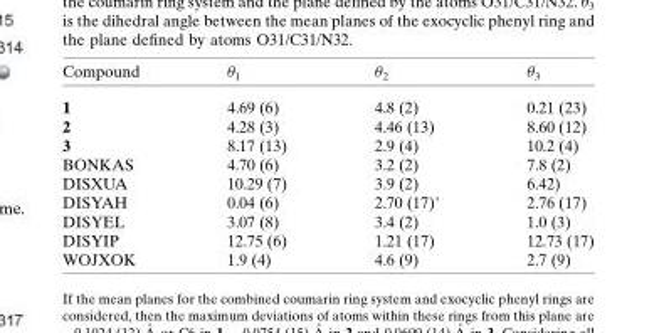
<table><thead><tr><td>Compound</td><td>θ<sub>1</sub></td><td>θ<sub>2</sub></td><td>θ<sub>3</sub></td></tr></thead><tbody><tr><td>1</td><td>4.69 (6)</td><td>4.8 (2)</td><td>0.21 (23)</td></tr><tr><td>2</td><td>4.28 (3)</td><td>4.46 (13)</td><td>8.60 (12)</td></tr><tr><td>3</td><td>8.17 (13)</td><td>2.9 (4)</td><td>10.2 (4)</td></tr><tr><td>BONKAS</td><td>4.70 (6)</td><td>3.2 (2)</td><td>7.8 (2)</td></tr><tr><td>DISXUA</td><td>10.29 (7)</td><td>3.9 (2)</td><td>6.42)</td></tr><tr><td>DISYAH</td><td>0.04 (6)</td><td>2.70 (17)’</td><td>2.76 (17)</td></tr><tr><td>DISYEL</td><td>3.07 (8)</td><td>3.4 (2)</td><td>1.0 (3)</td></tr><tr><td>DISYIP</td><td>12.75 (6)</td><td>1.21 (17)</td><td>12.73 (17)</td></tr><tr><td>WOJXOK</td><td>1.9 (4)</td><td>4.6 (9)</td><td>2.7 (9)</td></tr></tbody></table>